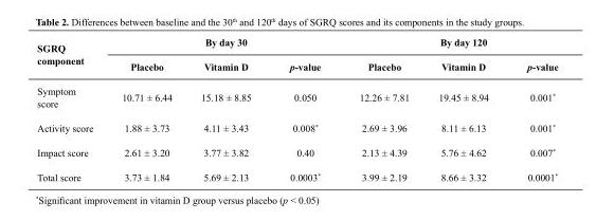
<table><thead><tr><td rowspan="2">SGRQ component</td><td colspan="3">By day 30</td><td colspan="3">By day 120</td></tr><tr><td>Placebo</td><td>Vitamin D</td><td>p-value</td><td>Placebo</td><td>Vitamin D</td><td>p-value</td></tr></thead><tbody><tr><td>Symptom score</td><td>10.71 ± 6.44</td><td>15.18 ± 8.85</td><td>0.050</td><td>12.26 ± 7.81</td><td>19.45 ± 8.94</td><td>0.001*</td></tr><tr><td>Activity score</td><td>1.88 ± 3.73</td><td>4.11 ± 3.43</td><td>0.008*</td><td>2.69 ± 3.96</td><td>8.11 ± 6.13</td><td>0.001*</td></tr><tr><td>Impact score</td><td>2.61 ± 3.20</td><td>3.77 ± 3.82</td><td>0.40</td><td>2.13 ± 4.39</td><td>5.76 ± 4.62</td><td>0.007*</td></tr><tr><td>Total score</td><td>3.73 ± 1.84</td><td>5.69 ± 2.13</td><td>0.0003*</td><td>3.99 ± 2.19</td><td>8.66 ± 3.32</td><td>0.0001*</td></tr></tbody></table>